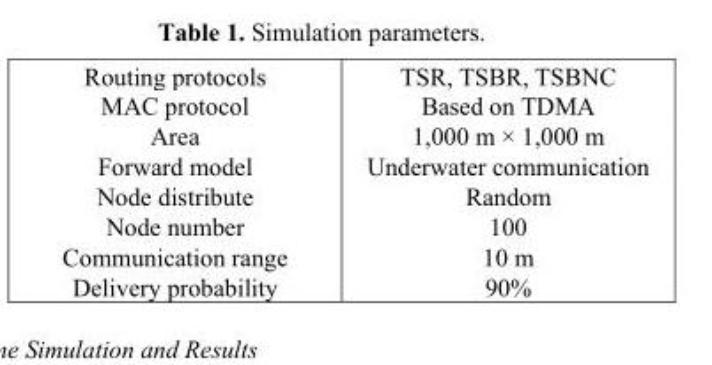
<table><tbody><tr><td>Routing protocols</td><td>TSR, TSBR, TSBNC</td></tr><tr><td>MAC protocol</td><td>Based on TDMA</td></tr><tr><td>Area</td><td>1,000 m × 1,000 m</td></tr><tr><td>Forward model</td><td>Underwater communication</td></tr><tr><td>Node distribute</td><td>Random</td></tr><tr><td>Node number</td><td>100</td></tr><tr><td>Communication range</td><td>10 m</td></tr><tr><td>Delivery probability</td><td>90%</td></tr></tbody></table>